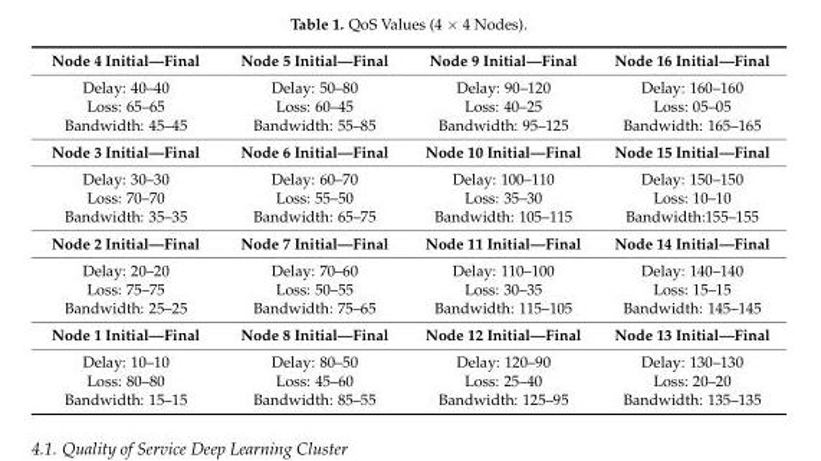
<table><tbody><tr><td>Node 4 Initial—Final</td><td>Node 5 Initial—Final</td><td>Node 9 Initial—Final</td><td>Node 16 Initial—Final</td></tr><tr><td>Delay: 40–40</td><td>Delay: 50–80</td><td>Delay: 90–120</td><td>Delay: 160–160</td></tr><tr><td>Loss: 65–65</td><td>Loss: 60–45</td><td>Loss: 40–25</td><td>Loss: 05–05</td></tr><tr><td>Bandwidth: 45–45</td><td>Bandwidth: 55–85</td><td>Bandwidth: 95–125</td><td>Bandwidth: 165–165</td></tr><tr><td>Node 3 Initial—Final</td><td>Node 6 Initial—Final</td><td>Node 10 Initial—Final</td><td>Node 15 Initial—Final</td></tr><tr><td>Delay: 30–30</td><td>Delay: 60–70</td><td>Delay: 100–110</td><td>Delay: 150–150</td></tr><tr><td>Loss: 70–70</td><td>Loss: 55–50</td><td>Loss: 35–30</td><td>Loss: 10–10</td></tr><tr><td>Bandwidth: 35–35</td><td>Bandwidth: 65–75</td><td>Bandwidth: 105–115</td><td>Bandwidth:155–155</td></tr><tr><td>Node 2 Initial—Final</td><td>Node 7 Initial—Final</td><td>Node 11 Initial—Final</td><td>Node 14 Initial—Final</td></tr><tr><td>Delay: 20–20</td><td>Delay: 70–60</td><td>Delay: 110–100</td><td>Delay: 140–140</td></tr><tr><td>Loss: 75–75</td><td>Loss: 50–55</td><td>Loss: 30–35</td><td>Loss: 15–15</td></tr><tr><td>Bandwidth: 25–25</td><td>Bandwidth: 75–65</td><td>Bandwidth: 115–105</td><td>Bandwidth: 145–145</td></tr><tr><td>Node 1 Initial—Final</td><td>Node 8 Initial—Final</td><td>Node 12 Initial—Final</td><td>Node 13 Initial—Final</td></tr><tr><td>Delay: 10–10</td><td>Delay: 80–50</td><td>Delay: 120–90</td><td>Delay: 130–130</td></tr><tr><td>Loss: 80–80</td><td>Loss: 45–60</td><td>Loss: 25–40</td><td>Loss: 20–20</td></tr><tr><td>Bandwidth: 15–15</td><td>Bandwidth: 85–55</td><td>Bandwidth: 125–95</td><td>Bandwidth: 135–135</td></tr></tbody></table>